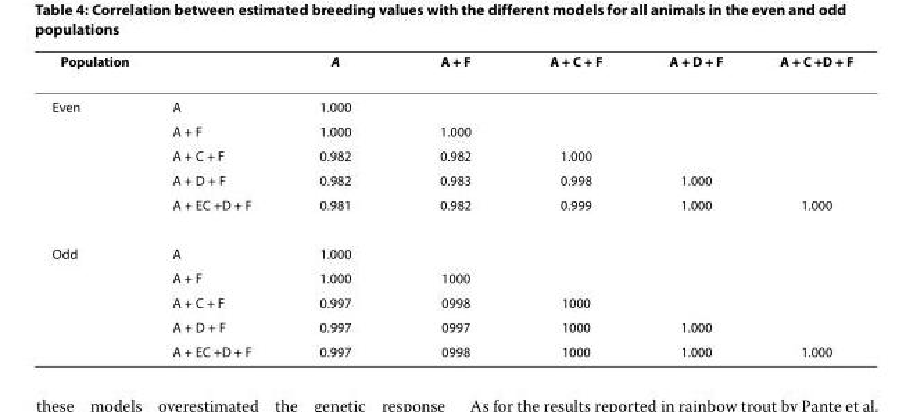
<table><thead><tr><td>Population</td><td></td><td>A</td><td>A + F</td><td>A + C + F</td><td>A + D + F</td><td>A + C +D + F</td></tr></thead><tbody><tr><td rowspan="5">Even</td><td>A</td><td>1.000</td><td></td><td></td><td></td><td></td></tr><tr><td>A + F</td><td>1.000</td><td>1.000</td><td></td><td></td><td></td></tr><tr><td>A + C + F</td><td>0.982</td><td>0.982</td><td>1.000</td><td></td><td></td></tr><tr><td>A + D + F</td><td>0.982</td><td>0.983</td><td>0.998</td><td>1.000</td><td></td></tr><tr><td>A + EC +D + F</td><td>0.981</td><td>0.982</td><td>0.999</td><td>1.000</td><td>1.000</td></tr><tr><td rowspan="5">Odd</td><td>A</td><td>1.000</td><td></td><td></td><td></td><td></td></tr><tr><td>A + F</td><td>1.000</td><td>1000</td><td></td><td></td><td></td></tr><tr><td>A + C + F</td><td>0.997</td><td>0998</td><td>1000</td><td></td><td></td></tr><tr><td>A + D + F</td><td>0.997</td><td>0997</td><td>1000</td><td>1.000</td><td></td></tr><tr><td>A + EC +D + F</td><td>0.997</td><td>0998</td><td>1000</td><td>1.000</td><td>1.000</td></tr></tbody></table>